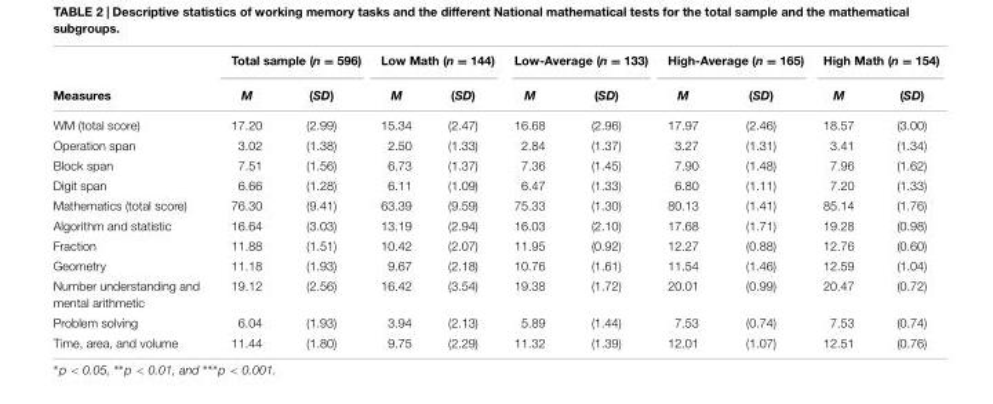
<table><thead><tr><td rowspan="2">Measures</td><td colspan="2">Total sample (n = 596)</td><td colspan="2">Low Math (n = 144)</td><td colspan="2">Low-Average (n = 133)</td><td colspan="2">High-Average (n = 165)</td><td colspan="2">High Math (n = 154)</td></tr><tr><td>M</td><td>(SD)</td><td>M</td><td>(SD)</td><td>M</td><td>(SD)</td><td>M</td><td>(SD)</td><td>M</td><td>(SD)</td></tr></thead><tbody><tr><td>WM (total score)</td><td>17.20</td><td>(2.99)</td><td>15.34</td><td>(2.47)</td><td>16.68</td><td>(2.96)</td><td>17.97</td><td>(2.46)</td><td>18.57</td><td>(3.00)</td></tr><tr><td>Operation span</td><td>3.02</td><td>(1.38)</td><td>2.50</td><td>(1.33)</td><td>2.84</td><td>(1.37)</td><td>3.27</td><td>(1.31)</td><td>3.41</td><td>(1.34)</td></tr><tr><td>Block span</td><td>7.51</td><td>(1.56)</td><td>6.73</td><td>(1.37)</td><td>7.36</td><td>(1.45)</td><td>7.90</td><td>(1.48)</td><td>7.96</td><td>(1.62)</td></tr><tr><td>Digit span</td><td>6.66</td><td>(1.28)</td><td>6.11</td><td>(1.09)</td><td>6.47</td><td>(1.33)</td><td>6.80</td><td>(1.11)</td><td>7.20</td><td>(1.33)</td></tr><tr><td>Mathematics (total score)</td><td>76.30</td><td>(9.41)</td><td>63.39</td><td>(9.59)</td><td>75.33</td><td>(1.30)</td><td>80.13</td><td>(1.41)</td><td>85.14</td><td>(1.76)</td></tr><tr><td>Algorithm and statistic</td><td>16.64</td><td>(3.03)</td><td>13.19</td><td>(2.94)</td><td>16.03</td><td>(2.10)</td><td>17.68</td><td>(1.71)</td><td>19.28</td><td>(0.98)</td></tr><tr><td>Fraction</td><td>11.88</td><td>(1.51)</td><td>10.42</td><td>(2.07)</td><td>11.95</td><td>(0.92)</td><td>12.27</td><td>(0.88)</td><td>12.76</td><td>(0.60)</td></tr><tr><td>Geometry</td><td>11.18</td><td>(1.93)</td><td>9.67</td><td>(2.18)</td><td>10.76</td><td>(1.61)</td><td>11.54</td><td>(1.46)</td><td>12.59</td><td>(1.04)</td></tr><tr><td>Number understanding and mental arithmetic</td><td>19.12</td><td>(2.56)</td><td>16.42</td><td>(3.54)</td><td>19.38</td><td>(1.72)</td><td>20.01</td><td>(0.99)</td><td>20.47</td><td>(0.72)</td></tr><tr><td>Problem solving</td><td>6.04</td><td>(1.93)</td><td>3.94</td><td>(2.13)</td><td>5.89</td><td>(1.44)</td><td>7.53</td><td>(0.74)</td><td>7.53</td><td>(0.74)</td></tr><tr><td>Time, area, and volume</td><td>11.44</td><td>(1.80)</td><td>9.75</td><td>(2.29)</td><td>11.32</td><td>(1.39)</td><td>12.01</td><td>(1.07)</td><td>12.51</td><td>(0.76)</td></tr></tbody></table>